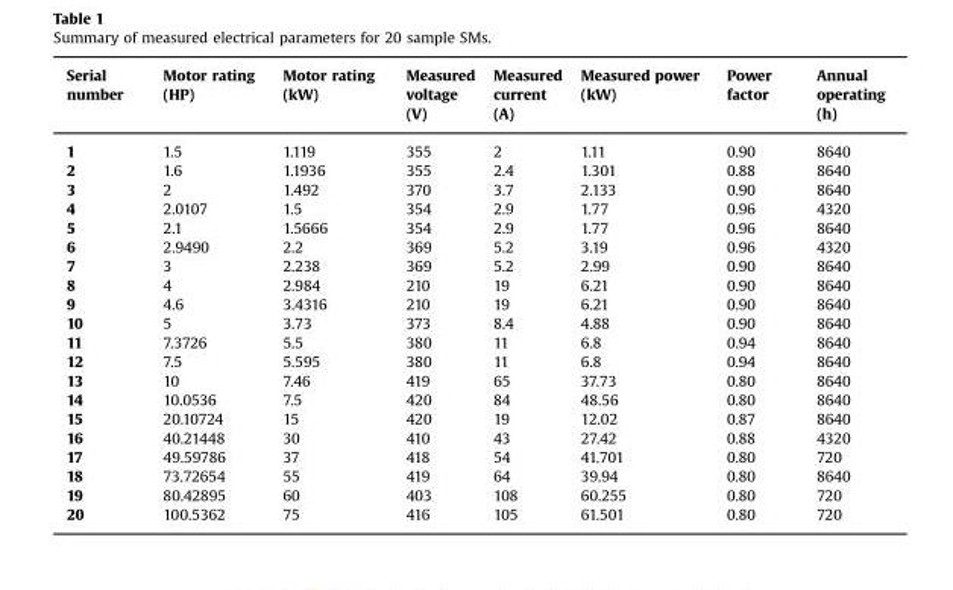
<table><thead><tr><td>Serial number</td><td>Motor rating (HP)</td><td>Motor rating (kW)</td><td>Measured voltage (V)</td><td>Measured current (A)</td><td>Measured power (kW)</td><td>Power factor</td><td>Annual operating (h)</td></tr></thead><tbody><tr><td>1</td><td>1.5</td><td>1.119</td><td>355</td><td>2</td><td>1.11</td><td>0.90</td><td>8640</td></tr><tr><td>2</td><td>1.6</td><td>1.1936</td><td>355</td><td>2.4</td><td>1.301</td><td>0.88</td><td>8640</td></tr><tr><td>3</td><td>2</td><td>1.492</td><td>370</td><td>3.7</td><td>2.133</td><td>0.90</td><td>8640</td></tr><tr><td>4</td><td>2.0107</td><td>1.5</td><td>354</td><td>2.9</td><td>1.77</td><td>0.96</td><td>4320</td></tr><tr><td>5</td><td>2.1</td><td>1.5666</td><td>354</td><td>2.9</td><td>1.77</td><td>0.96</td><td>8640</td></tr><tr><td>6</td><td>2.9490</td><td>2.2</td><td>369</td><td>5.2</td><td>3.19</td><td>0.96</td><td>4320</td></tr><tr><td>7</td><td>3</td><td>2.238</td><td>369</td><td>5.2</td><td>2.99</td><td>0.90</td><td>8640</td></tr><tr><td>8</td><td>4</td><td>2.984</td><td>210</td><td>19</td><td>6.21</td><td>0.90</td><td>8640</td></tr><tr><td>9</td><td>4.6</td><td>3.4316</td><td>210</td><td>19</td><td>6.21</td><td>0.90</td><td>8640</td></tr><tr><td>10</td><td>5</td><td>3.73</td><td>373</td><td>8.4</td><td>4.88</td><td>0.90</td><td>8640</td></tr><tr><td>11</td><td>7.3726</td><td>5.5</td><td>380</td><td>11</td><td>6.8</td><td>0.94</td><td>8640</td></tr><tr><td>12</td><td>7.5</td><td>5.595</td><td>380</td><td>11</td><td>6.8</td><td>0.94</td><td>8640</td></tr><tr><td>13</td><td>10</td><td>7.46</td><td>419</td><td>65</td><td>37.73</td><td>0.80</td><td>8640</td></tr><tr><td>14</td><td>10.0536</td><td>7.5</td><td>420</td><td>84</td><td>48.56</td><td>0.80</td><td>8640</td></tr><tr><td>15</td><td>20.10724</td><td>15</td><td>420</td><td>19</td><td>12.02</td><td>0.87</td><td>8640</td></tr><tr><td>16</td><td>40.21448</td><td>30</td><td>410</td><td>43</td><td>27.42</td><td>0.88</td><td>4320</td></tr><tr><td>17</td><td>49.59786</td><td>37</td><td>418</td><td>54</td><td>41.701</td><td>0.80</td><td>720</td></tr><tr><td>18</td><td>73.72654</td><td>55</td><td>419</td><td>64</td><td>39.94</td><td>0.80</td><td>8640</td></tr><tr><td>19</td><td>80.42895</td><td>60</td><td>403</td><td>108</td><td>60.255</td><td>0.80</td><td>720</td></tr><tr><td>20</td><td>100.5362</td><td>75</td><td>416</td><td>105</td><td>61.501</td><td>0.80</td><td>720</td></tr></tbody></table>